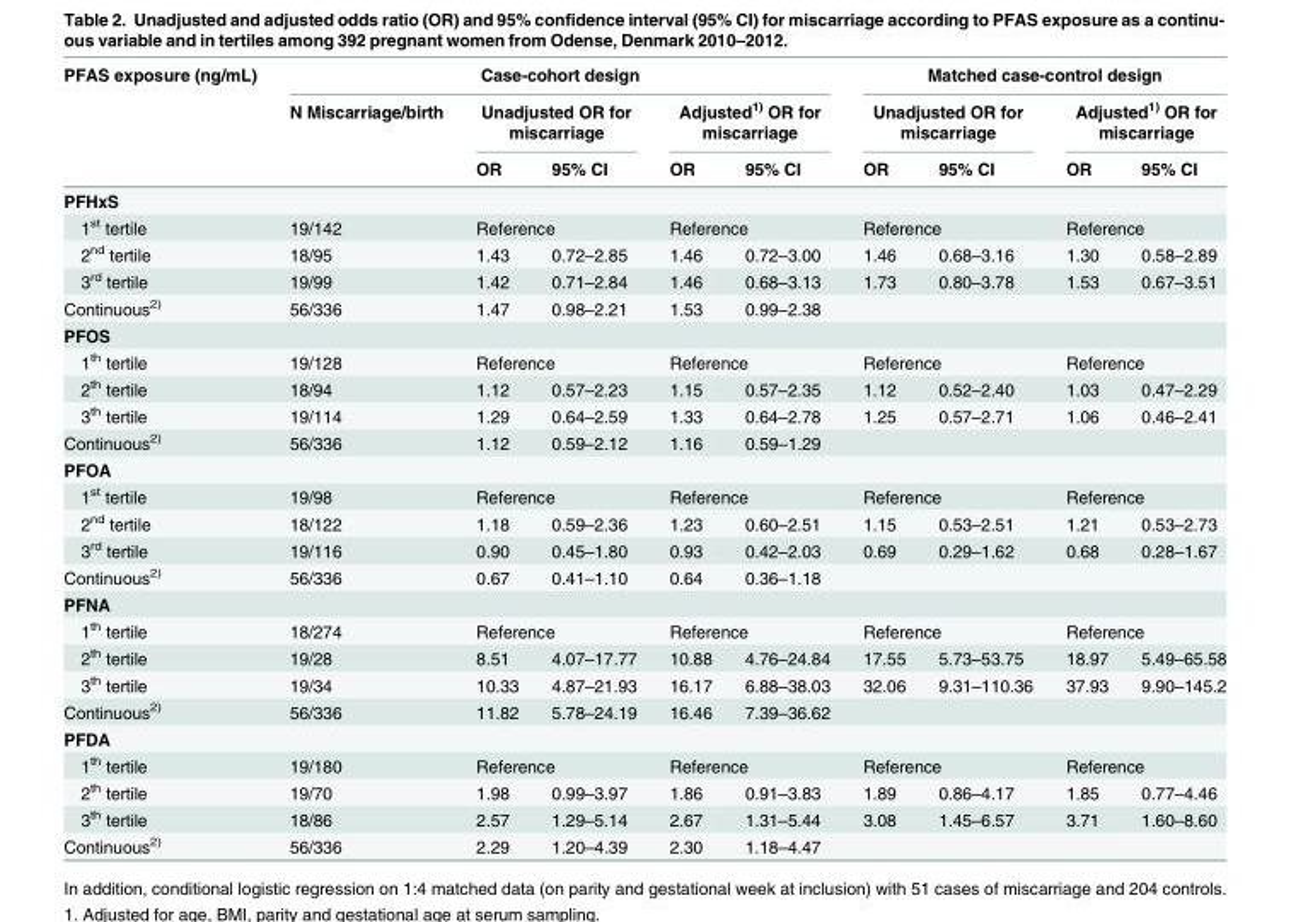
<table><thead><tr><td rowspan="3">PFAS exposure (ng/mL)</td><td colspan="5">Case-cohort design</td><td colspan="4">Matched case-control design</td></tr><tr><td rowspan="2">N Miscarriage/birth</td><td colspan="2">Unadjusted OR for miscarriage</td><td colspan="2">Adjusted<sup>1)</sup> OR for miscarriage</td><td colspan="2">Unadjusted OR for miscarriage</td><td colspan="2">Adjusted<sup>1)</sup> OR for miscarriage</td></tr><tr><td>OR</td><td>95% CI</td><td>OR</td><td>95% CI</td><td>OR</td><td>95% CI</td><td>OR</td><td>95% CI</td></tr></thead><tbody><tr><td colspan="10">PFHxS</td></tr><tr><td>1<sup>st</sup> tertile</td><td>19/142</td><td colspan="2">Reference</td><td colspan="2">Reference</td><td colspan="2">Reference</td><td colspan="2">Reference</td></tr><tr><td>2<sup>nd</sup> tertile</td><td>18/95</td><td>1.43</td><td>0.72–2.85</td><td>1.46</td><td>0.72–3.00</td><td>1.46</td><td>0.68–3.16</td><td>1.30</td><td>0.58–2.89</td></tr><tr><td>3<sup>rd</sup> tertile</td><td>19/99</td><td>1.42</td><td>0.71–2.84</td><td>1.46</td><td>0.68–3.13</td><td>1.73</td><td>0.80–3.78</td><td>1.53</td><td>0.67–3.51</td></tr><tr><td>Continuous<sup>2)</sup></td><td>56/336</td><td>1.47</td><td>0.98–2.21</td><td>1.53</td><td>0.99–2.38</td><td></td><td></td><td></td><td></td></tr><tr><td colspan="10">PFOS</td></tr><tr><td>1<sup>th</sup> tertile</td><td>19/128</td><td colspan="2">Reference</td><td colspan="2">Reference</td><td colspan="2">Reference</td><td colspan="2">Reference</td></tr><tr><td>2<sup>th</sup> tertile</td><td>18/94</td><td>1.12</td><td>0.57–2.23</td><td>1.15</td><td>0.57–2.35</td><td>1.12</td><td>0.52–2.40</td><td>1.03</td><td>0.47–2.29</td></tr><tr><td>3<sup>th</sup> tertile</td><td>19/114</td><td>1.29</td><td>0.64–2.59</td><td>1.33</td><td>0.64–2.78</td><td>1.25</td><td>0.57–2.71</td><td>1.06</td><td>0.46–2.41</td></tr><tr><td>Continuous<sup>2)</sup></td><td>56/336</td><td>1.12</td><td>0.59–2.12</td><td>1.16</td><td>0.59–1.29</td><td></td><td></td><td></td><td></td></tr><tr><td colspan="10">PFOA</td></tr><tr><td>1<sup>st</sup> tertile</td><td>19/98</td><td colspan="2">Reference</td><td colspan="2">Reference</td><td colspan="2">Reference</td><td colspan="2">Reference</td></tr><tr><td>2<sup>nd</sup> tertile</td><td>18/122</td><td>1.18</td><td>0.59–2.36</td><td>1.23</td><td>0.60–2.51</td><td>1.15</td><td>0.53–2.51</td><td>1.21</td><td>0.53–2.73</td></tr><tr><td>3<sup>rd</sup> tertile</td><td>19/116</td><td>0.90</td><td>0.45–1.80</td><td>0.93</td><td>0.42–2.03</td><td>0.69</td><td>0.29–1.62</td><td>0.68</td><td>0.28–1.67</td></tr><tr><td>Continuous<sup>2)</sup></td><td>56/336</td><td>0.67</td><td>0.41–1.10</td><td>0.64</td><td>0.36–1.18</td><td></td><td></td><td></td><td></td></tr><tr><td colspan="10">PFNA</td></tr><tr><td>1<sup>th</sup> tertile</td><td>18/274</td><td colspan="2">Reference</td><td colspan="2">Reference</td><td colspan="2">Reference</td><td colspan="2">Reference</td></tr><tr><td>2<sup>th</sup> tertile</td><td>19/28</td><td>8.51</td><td>4.07–17.77</td><td>10.88</td><td>4.76–24.84</td><td>17.55</td><td>5.73–53.75</td><td>18.97</td><td>5.49–65.58</td></tr><tr><td>3<sup>th</sup> tertile</td><td>19/34</td><td>10.33</td><td>4.87–21.93</td><td>16.17</td><td>6.88–38.03</td><td>32.06</td><td>9.31–110.36</td><td>37.93</td><td>9.90–145.2</td></tr><tr><td>Continuous<sup>2)</sup></td><td>56/336</td><td>11.82</td><td>5.78–24.19</td><td>16.46</td><td>7.39–36.62</td><td></td><td></td><td></td><td></td></tr><tr><td colspan="10">PFDA</td></tr><tr><td>1<sup>th</sup> tertile</td><td>19/180</td><td colspan="2">Reference</td><td colspan="2">Reference</td><td colspan="2">Reference</td><td colspan="2">Reference</td></tr><tr><td>2<sup>th</sup> tertile</td><td>19/70</td><td>1.98</td><td>0.99–3.97</td><td>1.86</td><td>0.91–3.83</td><td>1.89</td><td>0.86–4.17</td><td>1.85</td><td>0.77–4.46</td></tr><tr><td>3<sup>th</sup> tertile</td><td>18/86</td><td>2.57</td><td>1.29–5.14</td><td>2.67</td><td>1.31–5.44</td><td>3.08</td><td>1.45–6.57</td><td>3.71</td><td>1.60–8.60</td></tr><tr><td>Continuous<sup>2)</sup></td><td>56/336</td><td>2.29</td><td>1.20–4.39</td><td>2.30</td><td>1.18–4.47</td><td></td><td></td><td></td><td></td></tr></tbody></table>